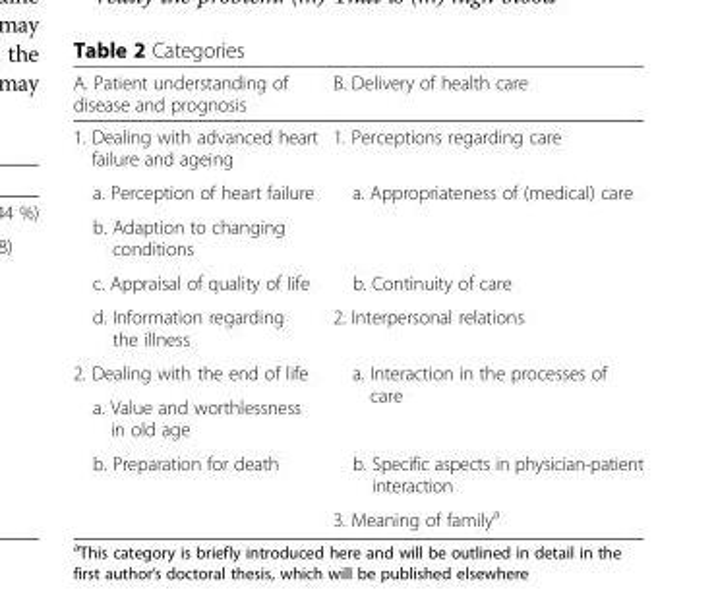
<table><thead><tr><td>A. Patient understanding of disease and prognosis</td><td>B. Delivery of health care</td></tr></thead><tbody><tr><td>1. Dealing with advanced heart failure and ageing</td><td>1. Perceptions regarding care</td></tr><tr><td>a. Perception of heart failure</td><td rowspan="2">a. Appropriateness of (medical) care</td></tr><tr><td>b. Adaption to changing conditions</td></tr><tr><td>c. Appraisal of quality of life</td><td>b. Continuity of care</td></tr><tr><td>d. Information regarding the illness</td><td>2. Interpersonal relations</td></tr><tr><td>2. Dealing with the end of life</td><td rowspan="2">a. Interaction in the processes of care</td></tr><tr><td>a. Value and worthlessness in old age</td></tr><tr><td rowspan="2">b. Preparation for death</td><td>b. Specific aspects in physician-patient interaction</td></tr><tr><td>3. Meaning of family<sup>a</sup></td></tr></tbody></table>